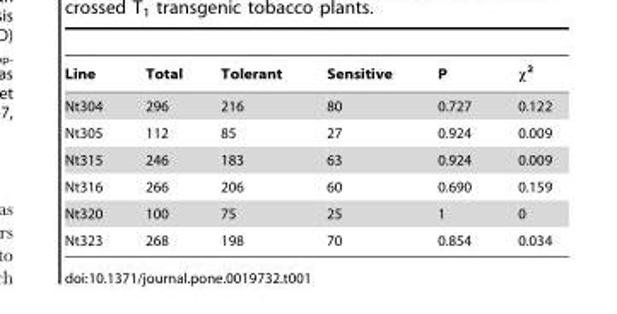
<table><thead><tr><td>Line</td><td>Total</td><td>Tolerant</td><td>Sensitive</td><td>P</td><td>χ<sup>2</sup></td></tr></thead><tbody><tr><td>Nt304</td><td>296</td><td>216</td><td>80</td><td>0.727</td><td>0.122</td></tr><tr><td>Nt305</td><td>112</td><td>85</td><td>27</td><td>0.924</td><td>0.009</td></tr><tr><td>Nt315</td><td>246</td><td>183</td><td>63</td><td>0.924</td><td>0.009</td></tr><tr><td>Nt316</td><td>266</td><td>206</td><td>60</td><td>0.690</td><td>0.159</td></tr><tr><td>Nt320</td><td>100</td><td>75</td><td>25</td><td>1</td><td>0</td></tr><tr><td>Nt323</td><td>268</td><td>198</td><td>70</td><td>0.854</td><td>0.034</td></tr></tbody></table>